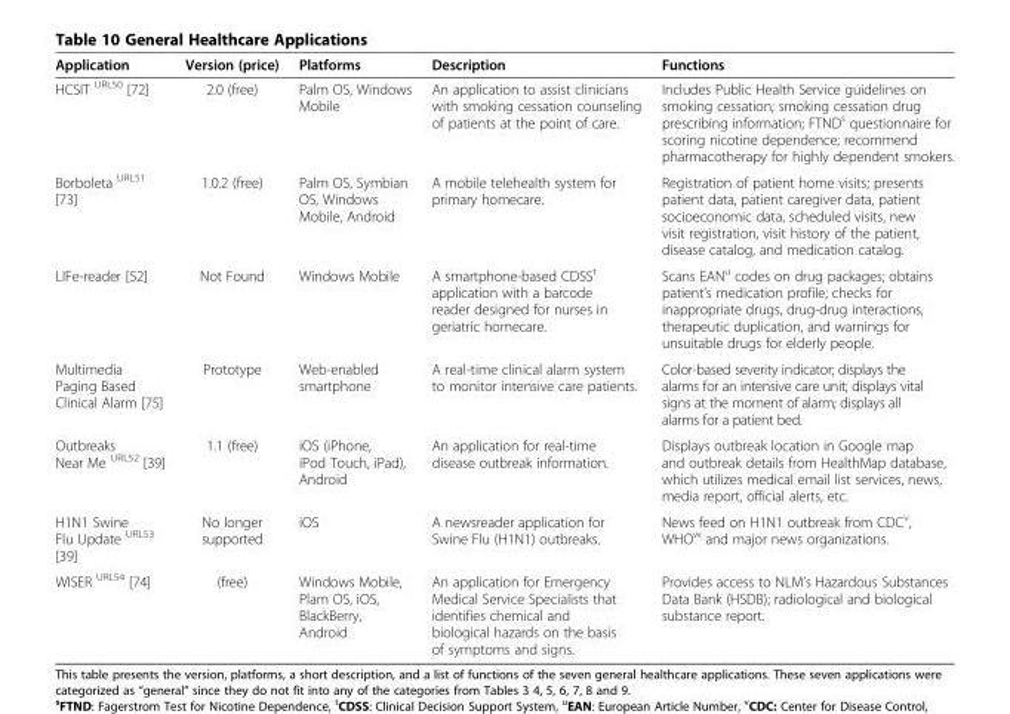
<table><thead><tr><td>Application</td><td>Version (price)</td><td>Platforms</td><td>Description</td><td>Functions</td></tr></thead><tbody><tr><td>HCSIT <sup>URL50</sup> [72]</td><td>2.0 (free)</td><td>Palm OS, Windows Mobile</td><td>An application to assist clinicians with smoking cessation counseling of patients at the point of care.</td><td>Includes Public Health Service guidelines on smoking cessation; smoking cessation drug prescribing information; FTND<sup>s</sup> questionnaire for scoring nicotine dependence; recommend pharmacotherapy for highly dependent smokers.</td></tr><tr><td>Borboleta <sup>URL51</sup> [73]</td><td>1.0.2 (free)</td><td>Palm OS, Symbian OS, Windows Mobile, Android</td><td>A mobile telehealth system for primary homecare.</td><td>Registration of patient home visits; presents patient data, patient caregiver data, patient socioeconomic data, scheduled visits, new visit registration, visit history of the patient, disease catalog, and medication catalog.</td></tr><tr><td>LIFe-reader [52]</td><td>Not Found</td><td>Windows Mobile</td><td>A smartphone-based CDSS<sup>t</sup> application with a barcode reader designed for nurses in geriatric homecare.</td><td>Scans EAN<sup>u</sup> codes on drug packages; obtains patient’s medication profile; checks for inappropriate drugs, drug-drug interactions, therapeutic duplication, and warnings for unsuitable drugs for elderly people.</td></tr><tr><td>Multimedia Paging Based Clinical Alarm [75]</td><td>Prototype</td><td>Web-enabled smartphone</td><td>A real-time clinical alarm system to monitor intensive care patients.</td><td>Color-based severity indicator; displays the alarms for an intensive care unit; displays vital signs at the moment of alarm; displays all alarms for a patient bed.</td></tr><tr><td>Outbreaks Near Me <sup>URL52</sup> [39]</td><td>1.1 (free)</td><td>iOS (iPhone, iPod Touch, iPad), Android</td><td>An application for real-time disease outbreak information.</td><td>Displays outbreak location in Google map and outbreak details from HealthMap database, which utilizes medical email list services, news, media report, official alerts, etc.</td></tr><tr><td>H1N1 Swine Flu Update <sup>URL53</sup> [39]</td><td>No longer supported</td><td>iOS</td><td>A newsreader application for Swine Flu (H1N1) outbreaks.</td><td>News feed on H1N1 outbreak from CDC<sup>v</sup>, WHO<sup>w</sup> and major news organizations.</td></tr><tr><td>WISER <sup>URL54</sup> [74]</td><td>(free)</td><td>Windows Mobile, Plam OS, iOS, BlackBerry, Android</td><td>An application for Emergency Medical Service Specialists that identifies chemical and biological hazards on the basis of symptoms and signs.</td><td>Provides access to NLM’s Hazardous Substances Data Bank (HSDB); radiological and biological substance report.</td></tr></tbody></table>